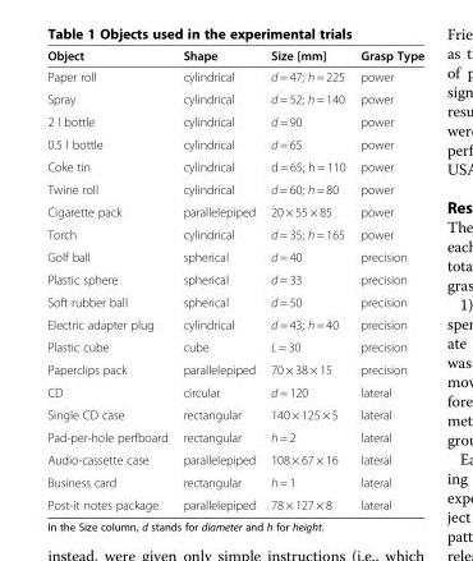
<table><thead><tr><td>Object</td><td>Shape</td><td>Size [mm]</td><td>Grasp Type</td></tr></thead><tbody><tr><td>Paper roll</td><td>cylindrical</td><td>d = 47; h = 225</td><td>power</td></tr><tr><td>Spray</td><td>cylindrical</td><td>d = 52; h = 140</td><td>power</td></tr><tr><td>2 l bottle</td><td>cylindrical</td><td>d = 90</td><td>power</td></tr><tr><td>0.5 l bottle</td><td>cylindrical</td><td>d = 65</td><td>power</td></tr><tr><td>Coke tin</td><td>cylindrical</td><td>d = 65; h = 110</td><td>power</td></tr><tr><td>Twine roll</td><td>cylindrical</td><td>d = 60; h = 80</td><td>power</td></tr><tr><td>Cigarette pack</td><td>parallelepiped</td><td>20 × 55 × 85</td><td>power</td></tr><tr><td>Torch</td><td>cylindrical</td><td>d = 35; h = 165</td><td>power</td></tr><tr><td>Golf ball</td><td>spherical</td><td>d = 40</td><td>precision</td></tr><tr><td>Plastic sphere</td><td>spherical</td><td>d = 33</td><td>precision</td></tr><tr><td>Soft rubber ball</td><td>spherical</td><td>d = 50</td><td>precision</td></tr><tr><td>Electric adapter plug</td><td>cylindrical</td><td>d = 43; h = 40</td><td>precision</td></tr><tr><td>Plastic cube</td><td>cube</td><td>L = 30</td><td>precision</td></tr><tr><td>Paperclips pack</td><td>parallelepiped</td><td>70 × 38 × 15</td><td>precision</td></tr><tr><td>CD</td><td>circular</td><td>d = 120</td><td>lateral</td></tr><tr><td>Single CD case</td><td>rectangular</td><td>140 × 125 × 5</td><td>lateral</td></tr><tr><td>Pad-per-hole perfboard</td><td>rectangular</td><td>h = 2</td><td>lateral</td></tr><tr><td>Audio-cassette case</td><td>parallelepiped</td><td>108 × 67 × 16</td><td>lateral</td></tr><tr><td>Business card</td><td>rectangular</td><td>h = 1</td><td>lateral</td></tr><tr><td>Post-it notes package</td><td>parallelepiped</td><td>78 × 127 × 8</td><td>lateral</td></tr></tbody></table>